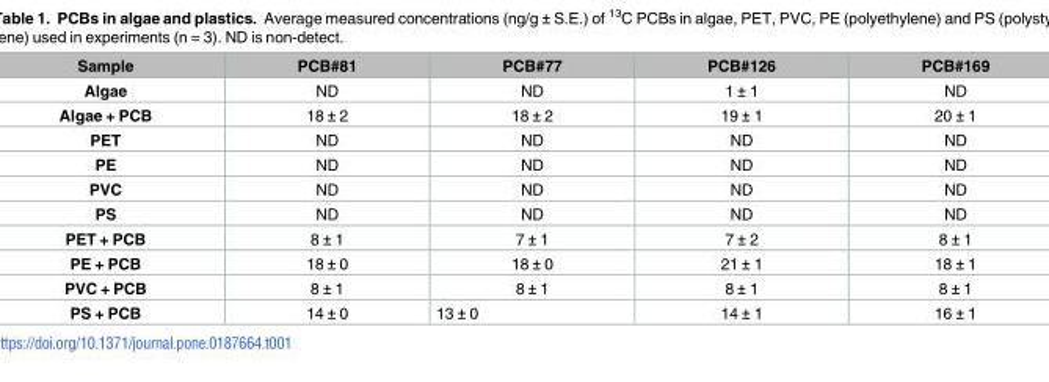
<table><thead><tr><td>Sample</td><td>PCB#81</td><td>PCB#77</td><td>PCB#126</td><td>PCB#169</td></tr></thead><tbody><tr><td>Algae</td><td>ND</td><td>ND</td><td>1 ± 1</td><td>ND</td></tr><tr><td>Algae + PCB</td><td>18 ± 2</td><td>18 ± 2</td><td>19 ± 1</td><td>20 ± 1</td></tr><tr><td>PET</td><td>ND</td><td>ND</td><td>ND</td><td>ND</td></tr><tr><td>PE</td><td>ND</td><td>ND</td><td>ND</td><td>ND</td></tr><tr><td>PVC</td><td>ND</td><td>ND</td><td>ND</td><td>ND</td></tr><tr><td>PS</td><td>ND</td><td>ND</td><td>ND</td><td>ND</td></tr><tr><td>PET + PCB</td><td>8 ± 1</td><td>7 ± 1</td><td>7 ± 2</td><td>8 ± 1</td></tr><tr><td>PE + PCB</td><td>18 ± 0</td><td>18 ± 0</td><td>21 ± 1</td><td>18 ± 1</td></tr><tr><td>PVC + PCB</td><td>8 ± 1</td><td>8 ± 1</td><td>8 ± 1</td><td>8 ± 1</td></tr><tr><td>PS + PCB</td><td>14 ± 0</td><td>13 ± 0</td><td>14 ± 1</td><td>16 ± 1</td></tr></tbody></table>